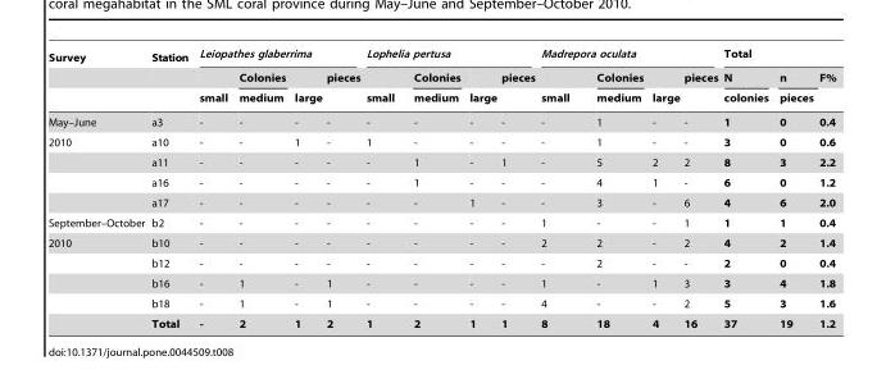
<table><thead><tr><td rowspan="3">Survey</td><td rowspan="3">Station</td><td colspan="4">Leiopathes glaberrima</td><td colspan="4">Lophelia pertusa</td><td colspan="4">Madrepora oculata</td><td colspan="3">Total</td></tr><tr><td rowspan="2">small</td><td rowspan="2">Colonies medium</td><td rowspan="2">large</td><td rowspan="2">pieces</td><td rowspan="2">small</td><td rowspan="2">Colonies medium</td><td rowspan="2">large</td><td rowspan="2">pieces</td><td rowspan="2">small</td><td rowspan="2">Colonies medium</td><td rowspan="2">large</td><td rowspan="2">pieces</td><td rowspan="2">N colonies</td><td rowspan="2">n pieces</td><td rowspan="2">F%</td></tr><tr></tr></thead><tbody><tr><td>May–June</td><td>a3</td><td>-</td><td>-</td><td>-</td><td>-</td><td>-</td><td>-</td><td>-</td><td>-</td><td>-</td><td>1</td><td>-</td><td>-</td><td>1</td><td>0</td><td>0.4</td></tr><tr><td rowspan="4">2010</td><td>a10</td><td>-</td><td>-</td><td>1</td><td>-</td><td>1</td><td>-</td><td>-</td><td>-</td><td>-</td><td>1</td><td>-</td><td>-</td><td>3</td><td>0</td><td>0.6</td></tr><tr><td>a11</td><td>-</td><td>-</td><td>-</td><td>-</td><td>-</td><td>1</td><td>-</td><td>1</td><td>-</td><td>5</td><td>2</td><td>2</td><td>8</td><td>3</td><td>2.2</td></tr><tr><td>a16</td><td>-</td><td>-</td><td>-</td><td>-</td><td>-</td><td>1</td><td>-</td><td>-</td><td>-</td><td>4</td><td>1</td><td>-</td><td>6</td><td>0</td><td>1.2</td></tr><tr><td>a17</td><td>-</td><td>-</td><td>-</td><td>-</td><td>-</td><td>-</td><td>1</td><td>-</td><td>-</td><td>3</td><td>-</td><td>6</td><td>4</td><td>6</td><td>2.0</td></tr><tr><td>September–October</td><td>b2</td><td>-</td><td>-</td><td>-</td><td>-</td><td>-</td><td>-</td><td>-</td><td>-</td><td>1</td><td>-</td><td>-</td><td>1</td><td>1</td><td>1</td><td>0.4</td></tr><tr><td rowspan="5">2010</td><td>b10</td><td>-</td><td>-</td><td>-</td><td>-</td><td>-</td><td>-</td><td>-</td><td>-</td><td>2</td><td>2</td><td>-</td><td>2</td><td>4</td><td>2</td><td>1.4</td></tr><tr><td>b12</td><td>-</td><td>-</td><td>-</td><td>-</td><td>-</td><td>-</td><td>-</td><td>-</td><td>-</td><td>2</td><td>-</td><td>-</td><td>2</td><td>0</td><td>0.4</td></tr><tr><td>b16</td><td>-</td><td>1</td><td>-</td><td>1</td><td>-</td><td>-</td><td>-</td><td>-</td><td>1</td><td>-</td><td>1</td><td>3</td><td>3</td><td>4</td><td>1.8</td></tr><tr><td>b18</td><td>-</td><td>1</td><td>-</td><td>1</td><td>-</td><td>-</td><td>-</td><td>-</td><td>4</td><td>-</td><td>-</td><td>2</td><td>5</td><td>3</td><td>1.6</td></tr><tr><td>Total</td><td>-</td><td>2</td><td>1</td><td>2</td><td>1</td><td>2</td><td>1</td><td>1</td><td>8</td><td>18</td><td>4</td><td>16</td><td>37</td><td>19</td><td>1.2</td></tr></tbody></table>